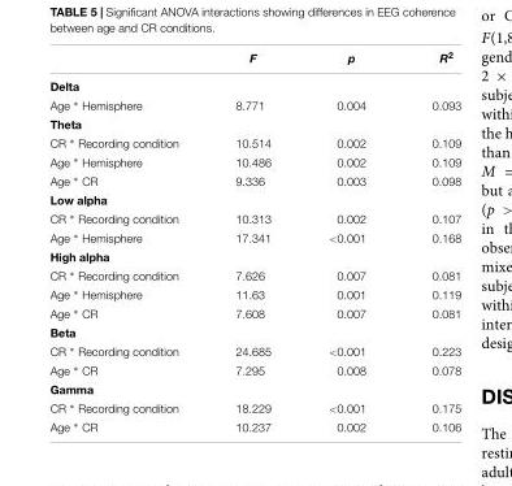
<table><thead><tr><td></td><td>F</td><td>p</td><td>R<sup>2</sup></td></tr></thead><tbody><tr><td colspan="4">Delta</td></tr><tr><td>Age ∗ Hemisphere</td><td>8.771</td><td>0.004</td><td>0.093</td></tr><tr><td colspan="4">Theta</td></tr><tr><td>CR ∗ Recording condition</td><td>10.514</td><td>0.002</td><td>0.109</td></tr><tr><td>Age ∗ Hemisphere</td><td>10.486</td><td>0.002</td><td>0.109</td></tr><tr><td>Age ∗ CR</td><td>9.336</td><td>0.003</td><td>0.098</td></tr><tr><td colspan="4">Low alpha</td></tr><tr><td>CR ∗ Recording condition</td><td>10.313</td><td>0.002</td><td>0.107</td></tr><tr><td>Age ∗ Hemisphere</td><td>17.341</td><td>&lt;0.001</td><td>0.168</td></tr><tr><td colspan="4">High alpha</td></tr><tr><td>CR ∗ Recording condition</td><td>7.626</td><td>0.007</td><td>0.081</td></tr><tr><td>Age ∗ Hemisphere</td><td>11.63</td><td>0.001</td><td>0.119</td></tr><tr><td>Age ∗ CR</td><td>7.608</td><td>0.007</td><td>0.081</td></tr><tr><td colspan="4">Beta</td></tr><tr><td>CR ∗ Recording condition</td><td>24.685</td><td>&lt;0.001</td><td>0.223</td></tr><tr><td>Age ∗ CR</td><td>7.295</td><td>0.008</td><td>0.078</td></tr><tr><td colspan="4">Gamma</td></tr><tr><td>CR ∗ Recording condition</td><td>18.229</td><td>&lt;0.001</td><td>0.175</td></tr><tr><td>Age ∗ CR</td><td>10.237</td><td>0.002</td><td>0.106</td></tr></tbody></table>